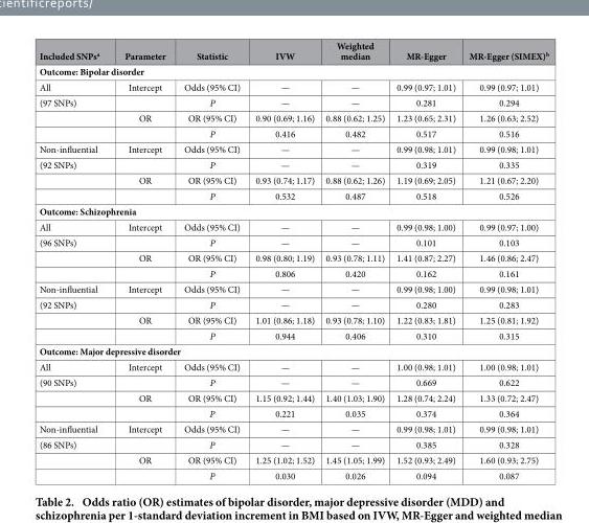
<table><thead><tr><td>Included SNPs<sup>a</sup></td><td>Parameter</td><td>Statistic</td><td>IVW</td><td>Weighted median</td><td>MR-Egger</td><td>MR-Egger (SIMEX)<sup>b</sup></td></tr></thead><tbody><tr><td colspan="7">Outcome: Bipolar disorder</td></tr><tr><td>All</td><td>Intercept</td><td>Odds (95% CI)</td><td>—</td><td>—</td><td>0.99 (0.97; 1.01)</td><td>0.99 (0.97; 1.01)</td></tr><tr><td rowspan="3">(97 SNPs)</td><td></td><td>P</td><td>—</td><td>—</td><td>0.281</td><td>0.294</td></tr><tr><td>OR</td><td>OR (95% CI)</td><td>0.90 (0.69; 1.16)</td><td>0.88 (0.62; 1.25)</td><td>1.23 (0.65; 2.31)</td><td>1.26 (0.63; 2.52)</td></tr><tr><td></td><td>P</td><td>0.416</td><td>0.482</td><td>0.517</td><td>0.516</td></tr><tr><td>Non-influential</td><td>Intercept</td><td>Odds (95% CI)</td><td>—</td><td>—</td><td>0.99 (0.98; 1.01)</td><td>0.99 (0.98; 1.01)</td></tr><tr><td rowspan="3">(92 SNPs)</td><td></td><td>P</td><td>—</td><td>—</td><td>0.319</td><td>0.335</td></tr><tr><td>OR</td><td>OR (95% CI)</td><td>0.93 (0.74; 1.17)</td><td>0.88 (0.62; 1.26)</td><td>1.19 (0.69; 2.05)</td><td>1.21 (0.67; 2.20)</td></tr><tr><td></td><td>P</td><td>0.532</td><td>0.487</td><td>0.518</td><td>0.526</td></tr><tr><td colspan="7">Outcome: Schizophrenia</td></tr><tr><td>All</td><td>Intercept</td><td>Odds (95% CI)</td><td>—</td><td>—</td><td>0.99 (0.98; 1.00)</td><td>0.99 (0.97; 1.00)</td></tr><tr><td rowspan="3">(96 SNPs)</td><td></td><td>P</td><td>—</td><td>—</td><td>0.101</td><td>0.103</td></tr><tr><td>OR</td><td>OR (95% CI)</td><td>0.98 (0.80; 1.19)</td><td>0.93 (0.78; 1.11)</td><td>1.41 (0.87; 2.27)</td><td>1.46 (0.86; 2.47)</td></tr><tr><td></td><td>P</td><td>0.806</td><td>0.420</td><td>0.162</td><td>0.161</td></tr><tr><td>Non-influential</td><td>Intercept</td><td>Odds (95% CI)</td><td>—</td><td>—</td><td>0.99 (0.98; 1.00)</td><td>0.99 (0.98; 1.01)</td></tr><tr><td rowspan="3">(92 SNPs)</td><td></td><td>P</td><td>—</td><td>—</td><td>0.280</td><td>0.283</td></tr><tr><td>OR</td><td>OR (95% CI)</td><td>1.01 (0.86; 1.18)</td><td>0.93 (0.78; 1.10)</td><td>1.22 (0.83; 1.81)</td><td>1.25 (0.81; 1.92)</td></tr><tr><td></td><td>P</td><td>0.944</td><td>0.406</td><td>0.310</td><td>0.315</td></tr><tr><td colspan="7">Outcome: Major depressive disorder</td></tr><tr><td>All</td><td>Intercept</td><td>Odds (95% CI)</td><td>—</td><td>—</td><td>1.00 (0.98; 1.01)</td><td>1.00 (0.98; 1.01)</td></tr><tr><td rowspan="3">(90 SNPs)</td><td></td><td>P</td><td>—</td><td>—</td><td>0.669</td><td>0.622</td></tr><tr><td>OR</td><td>OR (95% CI)</td><td>1.15 (0.92; 1.44)</td><td>1.40 (1.03; 1.90)</td><td>1.28 (0.74; 2.24)</td><td>1.33 (0.72; 2.47)</td></tr><tr><td></td><td>P</td><td>0.221</td><td>0.035</td><td>0.374</td><td>0.364</td></tr><tr><td>Non-influential</td><td>Intercept</td><td>Odds (95% CI)</td><td>—</td><td>—</td><td>0.99 (0.98; 1.01)</td><td>0.99 (0.98; 1.01)</td></tr><tr><td rowspan="3">(86 SNPs)</td><td></td><td>P</td><td>—</td><td>—</td><td>0.385</td><td>0.328</td></tr><tr><td>OR</td><td>OR (95% CI)</td><td>1.25 (1.02; 1.52)</td><td>1.45 (1.05; 1.99)</td><td>1.52 (0.93; 2.49)</td><td>1.60 (0.93; 2.75)</td></tr><tr><td></td><td>P</td><td>0.030</td><td>0.026</td><td>0.094</td><td>0.087</td></tr></tbody></table>